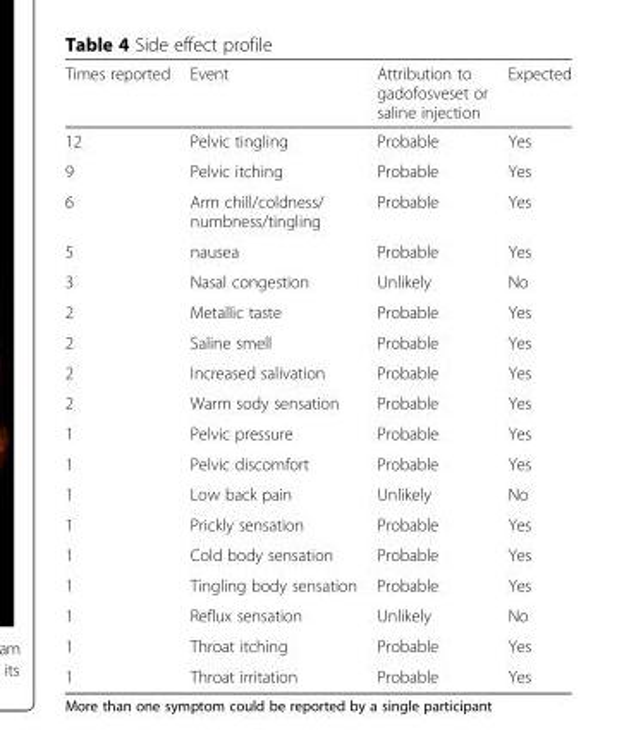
<table><thead><tr><td>Times reported</td><td>Event</td><td>Attribution to gadofosveset or saline injection</td><td>Expected</td></tr></thead><tbody><tr><td>12</td><td>Pelvic tingling</td><td>Probable</td><td>Yes</td></tr><tr><td>9</td><td>Pelvic itching</td><td>Probable</td><td>Yes</td></tr><tr><td>6</td><td>Arm chill/coldness/ numbness/tingling</td><td>Probable</td><td>Yes</td></tr><tr><td>5</td><td>nausea</td><td>Probable</td><td>Yes</td></tr><tr><td>3</td><td>Nasal congestion</td><td>Unlikely</td><td>No</td></tr><tr><td>2</td><td>Metallic taste</td><td>Probable</td><td>Yes</td></tr><tr><td>2</td><td>Saline smell</td><td>Probable</td><td>Yes</td></tr><tr><td>2</td><td>Increased salivation</td><td>Probable</td><td>Yes</td></tr><tr><td>2</td><td>Warm sody sensation</td><td>Probable</td><td>Yes</td></tr><tr><td>1</td><td>Pelvic pressure</td><td>Probable</td><td>Yes</td></tr><tr><td>1</td><td>Pelvic discomfort</td><td>Probable</td><td>Yes</td></tr><tr><td>1</td><td>Low back pain</td><td>Unlikely</td><td>No</td></tr><tr><td>1</td><td>Prickly sensation</td><td>Probable</td><td>Yes</td></tr><tr><td>1</td><td>Cold body sensation</td><td>Probable</td><td>Yes</td></tr><tr><td>1</td><td>Tingling body sensation</td><td>Probable</td><td>Yes</td></tr><tr><td>1</td><td>Reflux sensation</td><td>Unlikely</td><td>No</td></tr><tr><td>1</td><td>Throat itching</td><td>Probable</td><td>Yes</td></tr><tr><td>1</td><td>Throat irritation</td><td>Probable</td><td>Yes</td></tr></tbody></table>